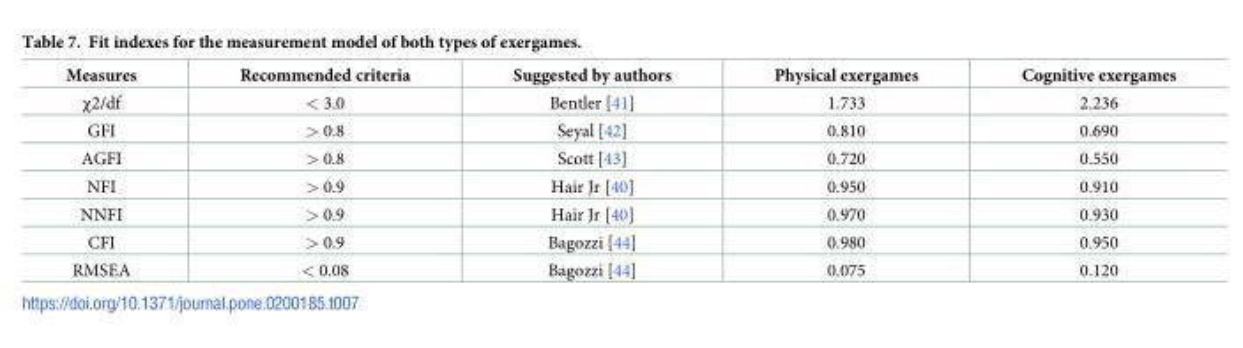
<table><thead><tr><td>Measures</td><td>Recommended criteria</td><td>Suggested by authors</td><td>Physical exergames</td><td>Cognitive exergames</td></tr></thead><tbody><tr><td>χ2/df</td><td>&lt; 3.0</td><td>Bentler [41]</td><td>1.733</td><td>2.236</td></tr><tr><td>GFI</td><td>&gt; 0.8</td><td>Seyal [42]</td><td>0.810</td><td>0.690</td></tr><tr><td>AGFI</td><td>&gt; 0.8</td><td>Scott [43]</td><td>0.720</td><td>0.550</td></tr><tr><td>NFI</td><td>&gt; 0.9</td><td>Hair Jr [40]</td><td>0.950</td><td>0.910</td></tr><tr><td>NNFI</td><td>&gt; 0.9</td><td>Hair Jr [40]</td><td>0.970</td><td>0.930</td></tr><tr><td>CFI</td><td>&gt; 0.9</td><td>Bagozzi [44]</td><td>0.980</td><td>0.950</td></tr><tr><td>RMSEA</td><td>&lt; 0.08</td><td>Bagozzi [44]</td><td>0.075</td><td>0.120</td></tr></tbody></table>